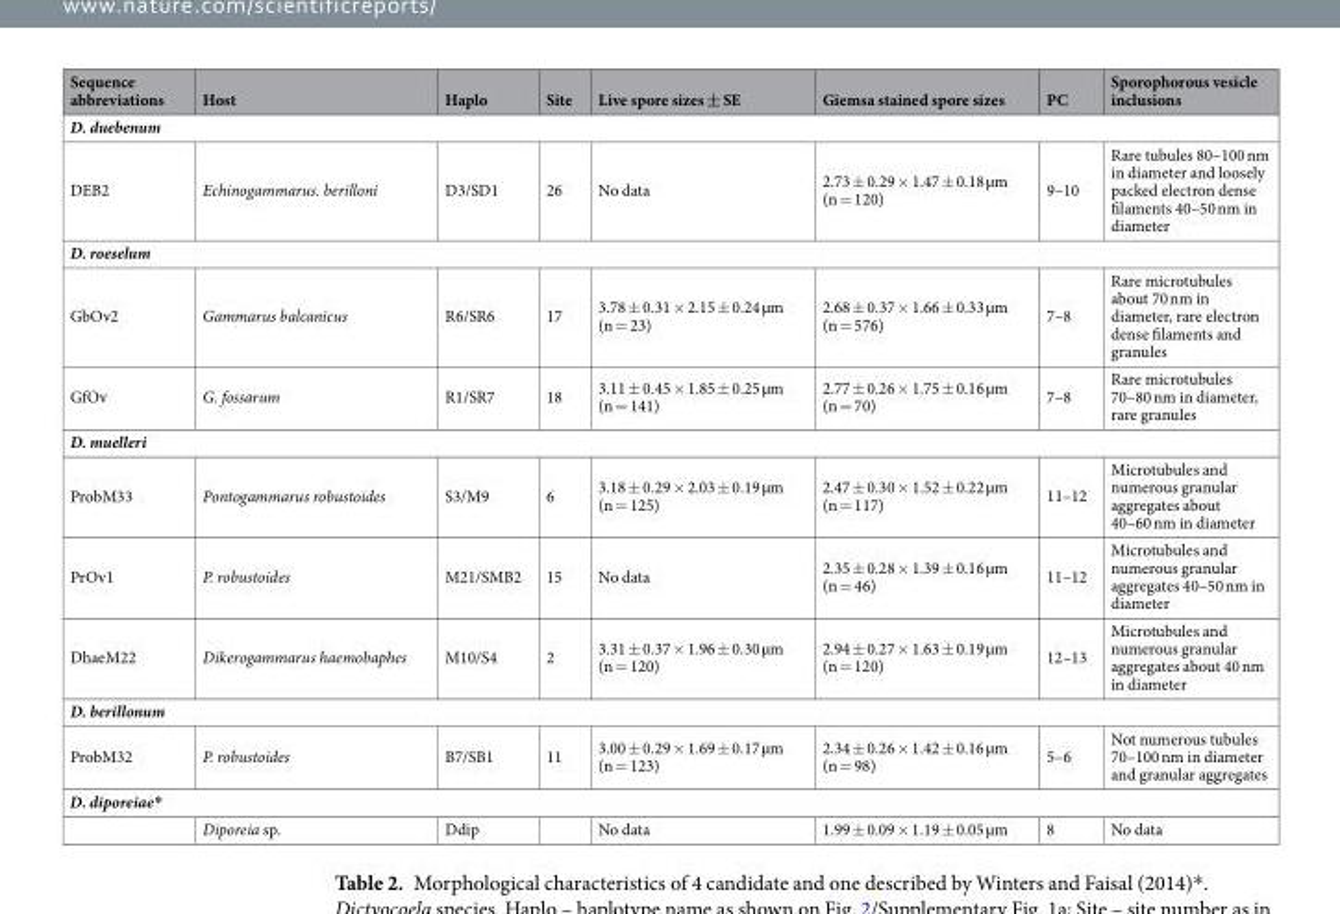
<table><thead><tr><td>Sequence abbreviations</td><td>Host</td><td>Haplo</td><td>Site</td><td>Live spore sizes ± SE</td><td>Giemsa stained spore sizes</td><td>PC</td><td>Sporophorous vesicle inclusions</td></tr></thead><tbody><tr><td colspan="8">D. duebenum</td></tr><tr><td>DEB2</td><td>Echinogammarus. berilloni</td><td>D3/SD1</td><td>26</td><td>No data</td><td>2.73 ± 0.29 × 1.47 ± 0.18 µm (n = 120)</td><td>9–10</td><td>Rare tubules 80–100 nm in diameter and loosely packed electron dense filaments 40–50 nm in diameter</td></tr><tr><td colspan="8">D. roeselum</td></tr><tr><td>GbOv2</td><td>Gammarus balcanicus</td><td>R6/SR6</td><td>17</td><td>3.78 ± 0.31 × 2.15 ± 0.24 µm (n = 23)</td><td>2.68 ± 0.37 × 1.66 ± 0.33 µm (n = 576)</td><td>7–8</td><td>Rare microtubules about 70 nm in diameter, rare electron dense filaments and granules</td></tr><tr><td>GfOv</td><td>G. fossarum</td><td>R1/SR7</td><td>18</td><td>3.11 ± 0.45 × 1.85 ± 0.25 µm (n = 141)</td><td>2.77 ± 0.26 × 1.75 ± 0.16 µm (n = 70)</td><td>7–8</td><td>Rare microtubules 70–80 nm in diameter, rare granules</td></tr><tr><td colspan="8">D. muelleri</td></tr><tr><td>ProbM33</td><td>Pontogammarus robustoides</td><td>S3/M9</td><td>6</td><td>3.18 ± 0.29 × 2.03 ± 0.19 µm (n = 125)</td><td>2.47 ± 0.30 × 1.52 ± 0.22 µm (n = 117)</td><td>11–12</td><td>Microtubules and numerous granular aggregates about 40–60 nm in diameter</td></tr><tr><td>PrOv1</td><td>P. robustoides</td><td>M21/SMB2</td><td>15</td><td>No data</td><td>2.35 ± 0.28 × 1.39 ± 0.16 µm (n = 46)</td><td>11–12</td><td>Microtubules and numerous granular aggregates 40–50 nm in diameter</td></tr><tr><td>DhaeM22</td><td>Dikerogammarus haemobaphes</td><td>M10/S4</td><td>2</td><td>3.31 ± 0.37 × 1.96 ± 0.30 µm (n = 120)</td><td>2.94 ± 0.27 × 1.63 ± 0.19 µm (n = 120)</td><td>12–13</td><td>Microtubules and numerous granular aggregates about 40 nm in diameter</td></tr><tr><td colspan="8">D. berillonum</td></tr><tr><td>ProbM32</td><td>P. robustoides</td><td>B7/SB1</td><td>11</td><td>3.00 ± 0.29 × 1.69 ± 0.17 µm (n = 123)</td><td>2.34 ± 0.26 × 1.42 ± 0.16 µm (n = 98)</td><td>5–6</td><td>Not numerous tubules 70–100 nm in diameter and granular aggregates</td></tr><tr><td colspan="8">D. diporeiae*</td></tr><tr><td></td><td>Diporeia sp.</td><td>Ddip</td><td></td><td>No data</td><td>1.99 ± 0.09 × 1.19 ± 0.05 µm</td><td>8</td><td>No data</td></tr></tbody></table>